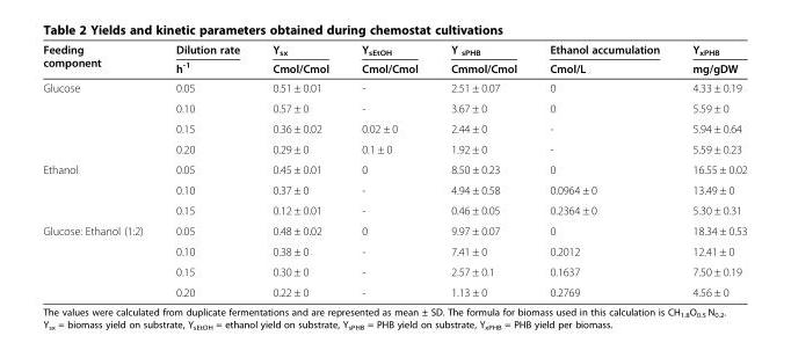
<table><thead><tr><td rowspan="2">Feeding component</td><td rowspan="2">Dilution rate h<sup>-1</sup></td><td rowspan="2">Y<sub>sx</sub> Cmol/Cmol</td><td rowspan="2">Y<sub>sEtOH</sub> Cmol/Cmol</td><td rowspan="2">Y <sub>sPHB</sub> Cmmol/Cmol</td><td rowspan="2">Ethanol accumulation Cmol/L</td><td rowspan="2">Y<sub>xPHB</sub> mg/gDW</td></tr><tr></tr></thead><tbody><tr><td rowspan="4">Glucose</td><td>0.05</td><td>0.51 ± 0.01</td><td>-</td><td>2.51 ± 0.07</td><td>0</td><td>4.33 ± 0.19</td></tr><tr><td>0.10</td><td>0.57 ± 0</td><td>-</td><td>3.67 ± 0</td><td>0</td><td>5.59 ± 0</td></tr><tr><td>0.15</td><td>0.36 ± 0.02</td><td>0.02 ± 0</td><td>2.44 ± 0</td><td>-</td><td>5.94 ± 0.64</td></tr><tr><td>0.20</td><td>0.29 ± 0</td><td>0.1 ± 0</td><td>1.92 ± 0</td><td>-</td><td>5.59 ± 0.23</td></tr><tr><td rowspan="3">Ethanol</td><td>0.05</td><td>0.45 ± 0.01</td><td>0</td><td>8.50 ± 0.23</td><td>0</td><td>16.55 ± 0.02</td></tr><tr><td>0.10</td><td>0.37 ± 0</td><td>-</td><td>4.94 ± 0.58</td><td>0.0964 ± 0</td><td>13.49 ± 0</td></tr><tr><td>0.15</td><td>0.12 ± 0.01</td><td>-</td><td>0.46 ± 0.05</td><td>0.2364 ± 0</td><td>5.30 ± 0.31</td></tr><tr><td rowspan="4">Glucose: Ethanol (1:2)</td><td>0.05</td><td>0.48 ± 0.02</td><td>0</td><td>9.97 ± 0.07</td><td>0</td><td>18.34 ± 0.53</td></tr><tr><td>0.10</td><td>0.38 ± 0</td><td>-</td><td>7.41 ± 0</td><td>0.2012</td><td>12.41 ± 0</td></tr><tr><td>0.15</td><td>0.30 ± 0</td><td>-</td><td>2.57 ± 0.1</td><td>0.1637</td><td>7.50 ± 0.19</td></tr><tr><td>0.20</td><td>0.22 ± 0</td><td>-</td><td>1.13 ± 0</td><td>0.2769</td><td>4.56 ± 0</td></tr></tbody></table>